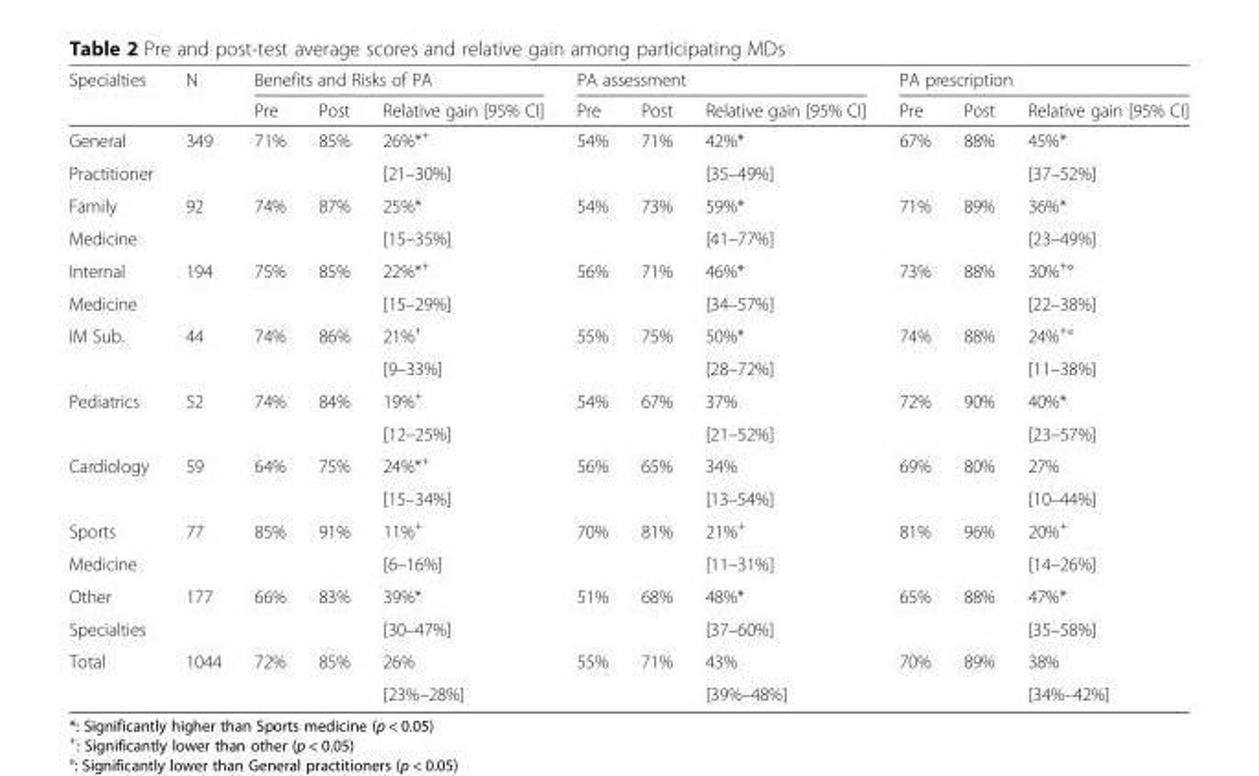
<table><thead><tr><td rowspan="2">Specialties</td><td rowspan="2">N</td><td colspan="3">Benefits and Risks of PA</td><td colspan="3">PA assessment</td><td colspan="3">PA prescription</td></tr><tr><td>Pre</td><td>Post</td><td>Relative gain [95% CI]</td><td>Pre</td><td>Post</td><td>Relative gain [95% CI]</td><td>Pre</td><td>Post</td><td>Relative gain [95% CI]</td></tr></thead><tbody><tr><td>General</td><td>349</td><td>71%</td><td>85%</td><td>26%*<sup>+</sup></td><td>54%</td><td>71%</td><td>42%*</td><td>67%</td><td>88%</td><td>45%*</td></tr><tr><td>Practitioner</td><td></td><td></td><td></td><td>[21–30%]</td><td></td><td></td><td>[35–49%]</td><td></td><td></td><td>[37–52%]</td></tr><tr><td>Family</td><td>92</td><td>74%</td><td>87%</td><td>25%*</td><td>54%</td><td>73%</td><td>59%*</td><td>71%</td><td>89%</td><td>36%*</td></tr><tr><td>Medicine</td><td></td><td></td><td></td><td>[15–35%]</td><td></td><td></td><td>[41–77%]</td><td></td><td></td><td>[23–49%]</td></tr><tr><td>Internal</td><td>194</td><td>75%</td><td>85%</td><td>22%*<sup>+</sup></td><td>56%</td><td>71%</td><td>46%*</td><td>73%</td><td>88%</td><td>30%<sup>+</sup>°</td></tr><tr><td>Medicine</td><td></td><td></td><td></td><td>[15–29%]</td><td></td><td></td><td>[34–57%]</td><td></td><td></td><td>[22–38%]</td></tr><tr><td rowspan="2">IM Sub.</td><td>44</td><td>74%</td><td>86%</td><td>21%<sup>+</sup></td><td>55%</td><td>75%</td><td>50%*</td><td>74%</td><td>88%</td><td>24%<sup>+</sup>°</td></tr><tr><td></td><td></td><td></td><td>[9–33%]</td><td></td><td></td><td>[28–72%]</td><td></td><td></td><td>[11–38%]</td></tr><tr><td rowspan="2">Pediatrics</td><td>52</td><td>74%</td><td>84%</td><td>19%<sup>+</sup></td><td>54%</td><td>67%</td><td>37%</td><td>72%</td><td>90%</td><td>40%*</td></tr><tr><td></td><td></td><td></td><td>[12–25%]</td><td></td><td></td><td>[21–52%]</td><td></td><td></td><td>[23–57%]</td></tr><tr><td rowspan="2">Cardiology</td><td>59</td><td>64%</td><td>75%</td><td>24%*<sup>+</sup></td><td>56%</td><td>65%</td><td>34%</td><td>69%</td><td>80%</td><td>27%</td></tr><tr><td></td><td></td><td></td><td>[15–34%]</td><td></td><td></td><td>[13–54%]</td><td></td><td></td><td>[10–44%]</td></tr><tr><td>Sports</td><td>77</td><td>85%</td><td>91%</td><td>11%<sup>+</sup></td><td>70%</td><td>81%</td><td>21%<sup>+</sup></td><td>81%</td><td>96%</td><td>20%<sup>+</sup></td></tr><tr><td>Medicine</td><td></td><td></td><td></td><td>[6–16%]</td><td></td><td></td><td>[11–31%]</td><td></td><td></td><td>[14–26%]</td></tr><tr><td>Other</td><td>177</td><td>66%</td><td>83%</td><td>39%*</td><td>51%</td><td>68%</td><td>48%*</td><td>65%</td><td>88%</td><td>47%*</td></tr><tr><td>Specialties</td><td></td><td></td><td></td><td>[30–47%]</td><td></td><td></td><td>[37–60%]</td><td></td><td></td><td>[35–58%]</td></tr><tr><td rowspan="2">Total</td><td>1044</td><td>72%</td><td>85%</td><td>26%</td><td>55%</td><td>71%</td><td>43%</td><td>70%</td><td>89%</td><td>38%</td></tr><tr><td></td><td></td><td></td><td>[23%–28%]</td><td></td><td></td><td>[39%–48%]</td><td></td><td></td><td>[34%–42%]</td></tr></tbody></table>